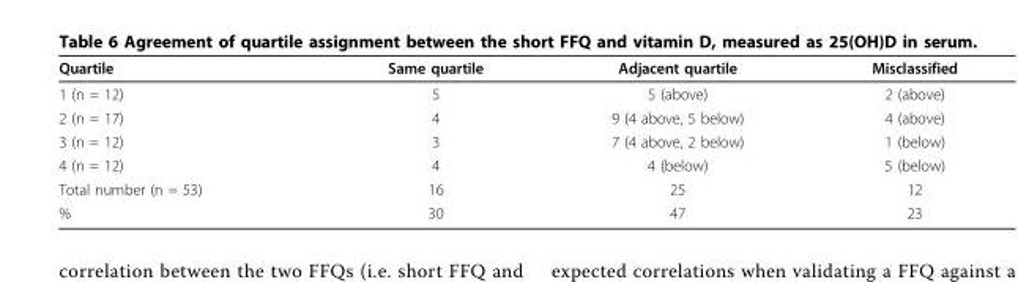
<table><thead><tr><td>Quartile</td><td>Same quartile</td><td>Adjacent quartile</td><td>Misclassified</td></tr></thead><tbody><tr><td>1 (n = 12)</td><td>5</td><td>5 (above)</td><td>2 (above)</td></tr><tr><td>2 (n = 17)</td><td>4</td><td>9 (4 above, 5 below)</td><td>4 (above)</td></tr><tr><td>3 (n = 12)</td><td>3</td><td>7 (4 above, 2 below)</td><td>1 (below)</td></tr><tr><td>4 (n = 12)</td><td>4</td><td>4 (below)</td><td>5 (below)</td></tr><tr><td>Total number (n = 53)</td><td>16</td><td>25</td><td>12</td></tr><tr><td>%</td><td>30</td><td>47</td><td>23</td></tr></tbody></table>